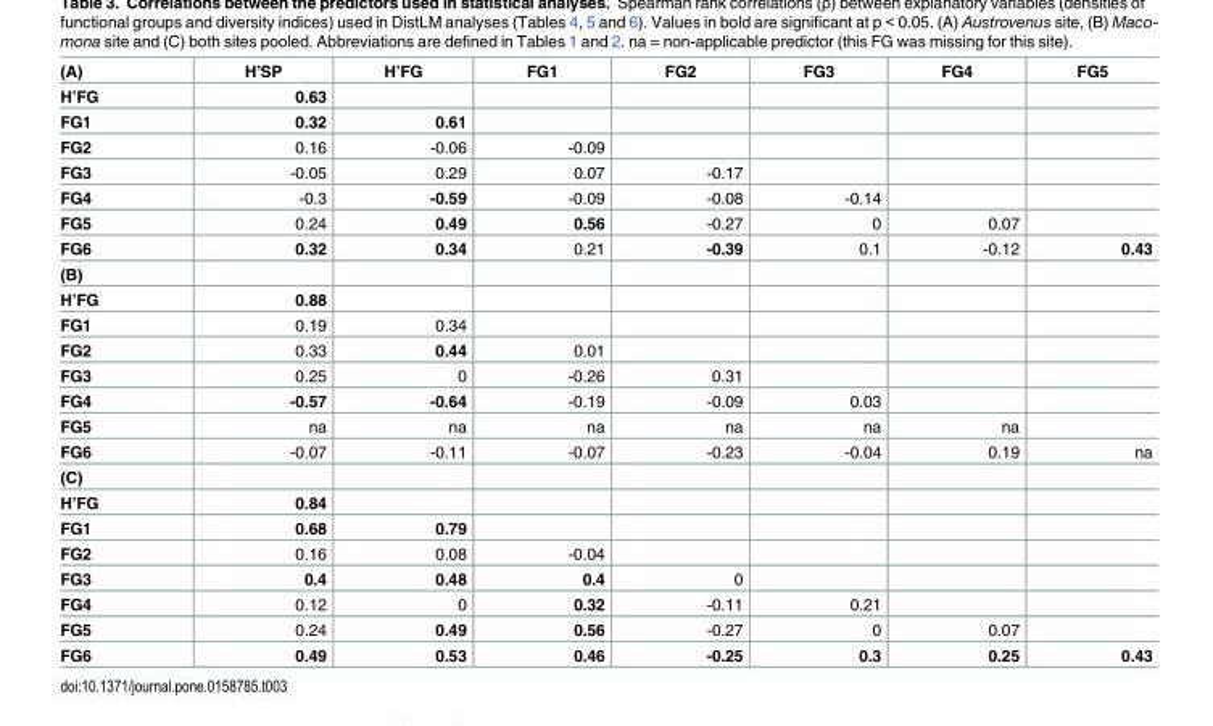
<table><tbody><tr><td>(A)</td><td>H’SP</td><td>H’FG</td><td>FG1</td><td>FG2</td><td>FG3</td><td>FG4</td><td>FG5</td></tr><tr><td>H’FG</td><td>0.63</td><td></td><td></td><td></td><td></td><td></td><td></td></tr><tr><td>FG1</td><td>0.32</td><td>0.61</td><td></td><td></td><td></td><td></td><td></td></tr><tr><td>FG2</td><td>0.16</td><td>-0.06</td><td>-0.09</td><td></td><td></td><td></td><td></td></tr><tr><td>FG3</td><td>-0.05</td><td>0.29</td><td>0.07</td><td>-0.17</td><td></td><td></td><td></td></tr><tr><td>FG4</td><td>-0.3</td><td>-0.59</td><td>-0.09</td><td>-0.08</td><td>-0.14</td><td></td><td></td></tr><tr><td>FG5</td><td>0.24</td><td>0.49</td><td>0.56</td><td>-0.27</td><td>0</td><td>0.07</td><td></td></tr><tr><td>FG6</td><td>0.32</td><td>0.34</td><td>0.21</td><td>-0.39</td><td>0.1</td><td>-0.12</td><td>0.43</td></tr><tr><td colspan="8">(B)</td></tr><tr><td>H’FG</td><td>0.88</td><td></td><td></td><td></td><td></td><td></td><td></td></tr><tr><td>FG1</td><td>0.19</td><td>0.34</td><td></td><td></td><td></td><td></td><td></td></tr><tr><td>FG2</td><td>0.33</td><td>0.44</td><td>0.01</td><td></td><td></td><td></td><td></td></tr><tr><td>FG3</td><td>0.25</td><td>0</td><td>-0.26</td><td>0.31</td><td></td><td></td><td></td></tr><tr><td>FG4</td><td>-0.57</td><td>-0.64</td><td>-0.19</td><td>-0.09</td><td>0.03</td><td></td><td></td></tr><tr><td>FG5</td><td>na</td><td>na</td><td>na</td><td>na</td><td>na</td><td>na</td><td></td></tr><tr><td>FG6</td><td>-0.07</td><td>-0.11</td><td>-0.07</td><td>-0.23</td><td>-0.04</td><td>0.19</td><td>na</td></tr><tr><td colspan="8">(C)</td></tr><tr><td>H’FG</td><td>0.84</td><td></td><td></td><td></td><td></td><td></td><td></td></tr><tr><td>FG1</td><td>0.68</td><td>0.79</td><td></td><td></td><td></td><td></td><td></td></tr><tr><td>FG2</td><td>0.16</td><td>0.08</td><td>-0.04</td><td></td><td></td><td></td><td></td></tr><tr><td>FG3</td><td>0.4</td><td>0.48</td><td>0.4</td><td>0</td><td></td><td></td><td></td></tr><tr><td>FG4</td><td>0.12</td><td>0</td><td>0.32</td><td>-0.11</td><td>0.21</td><td></td><td></td></tr><tr><td>FG5</td><td>0.24</td><td>0.49</td><td>0.56</td><td>-0.27</td><td>0</td><td>0.07</td><td></td></tr><tr><td>FG6</td><td>0.49</td><td>0.53</td><td>0.46</td><td>-0.25</td><td>0.3</td><td>0.25</td><td>0.43</td></tr></tbody></table>